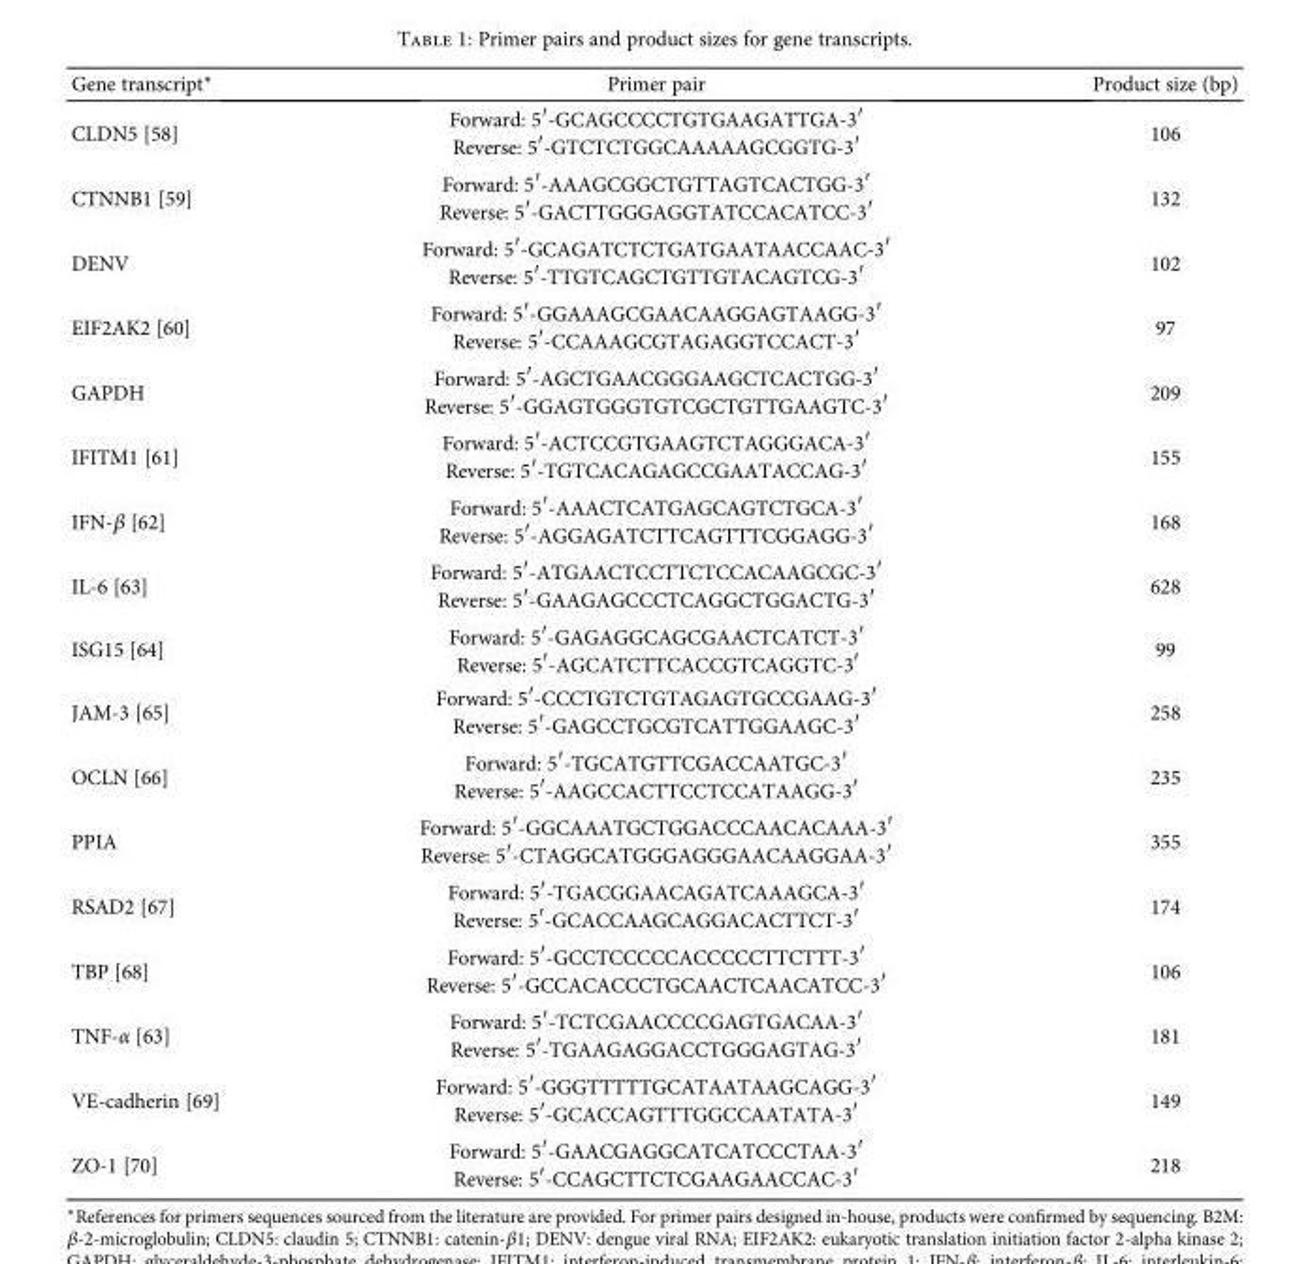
<table><thead><tr><td>Gene transcript∗</td><td>Primer pair</td><td>Product size (bp)</td></tr></thead><tbody><tr><td>CLDN5 [58]</td><td>Forward: 5′-GCAGCCCCTGTGAAGATTGA-3′ Reverse: 5′-GTCTCTGGCAAAAAGCGGTG-3′</td><td>106</td></tr><tr><td>CTNNB1 [59]</td><td>Forward: 5′-AAAGCGGCTGTTAGTCACTGG-3′ Reverse: 5′-GACTTGGGAGGTATCCACATCC-3′</td><td>132</td></tr><tr><td>DENV</td><td>Forward: 5′-GCAGATCTCTGATGAATAACCAAC-3′ Reverse: 5′-TTGTCAGCTGTTGTACAGTCG-3′</td><td>102</td></tr><tr><td>EIF2AK2 [60]</td><td>Forward: 5′-GGAAAGCGAACAAGGAGTAAGG-3′ Reverse: 5′-CCAAAGCGTAGAGGTCCACT-3′</td><td>97</td></tr><tr><td>GAPDH</td><td>Forward: 5′-AGCTGAACGGGAAGCTCACTGG-3′ Reverse: 5′-GGAGTGGGTGTCGCTGTTGAAGTC-3′</td><td>209</td></tr><tr><td>IFITM1 [61]</td><td>Forward: 5′-ACTCCGTGAAGTCTAGGGACA-3′ Reverse: 5′-TGTCACAGAGCCGAATACCAG-3′</td><td>155</td></tr><tr><td>IFN-β [62]</td><td>Forward: 5′-AAACTCATGAGCAGTCTGCA-3′ Reverse: 5′-AGGAGATCTTCAGTTTCGGAGG-3′</td><td>168</td></tr><tr><td>IL-6 [63]</td><td>Forward: 5′-ATGAACTCCTTCTCCACAAGCGC-3′ Reverse: 5′-GAAGAGCCCTCAGGCTGGACTG-3′</td><td>628</td></tr><tr><td>ISG15 [64]</td><td>Forward: 5′-GAGAGGCAGCGAACTCATCT-3′ Reverse: 5′-AGCATCTTCACCGTCAGGTC-3′</td><td>99</td></tr><tr><td>JAM-3 [65]</td><td>Forward: 5′-CCCTGTCTGTAGAGTGCCGAAG-3′ Reverse: 5′-GAGCCTGCGTCATTGGAAGC-3′</td><td>258</td></tr><tr><td>OCLN [66]</td><td>Forward: 5′-TGCATGTTCGACCAATGC-3′ Reverse: 5′-AAGCCACTTCCTCCATAAGG-3′</td><td>235</td></tr><tr><td>PPIA</td><td>Forward: 5′-GGCAAATGCTGGACCCAACACAAA-3′ Reverse: 5′-CTAGGCATGGGAGGGAACAAGGAA-3′</td><td>355</td></tr><tr><td>RSAD2 [67]</td><td>Forward: 5′-TGACGGAACAGATCAAAGCA-3′ Reverse: 5′-GCACCAAGCAGGACACTTCT-3′</td><td>174</td></tr><tr><td>TBP [68]</td><td>Forward: 5′-GCCTCCCCCACCCCCTTCTTT-3′ Reverse: 5′-GCCACACCCTGCAACTCAACATCC-3′</td><td>106</td></tr><tr><td>TNF-α [63]</td><td>Forward: 5′-TCTCGAACCCCGAGTGACAA-3′ Reverse: 5′-TGAAGAGGACCTGGGAGTAG-3′</td><td>181</td></tr><tr><td>VE-cadherin [69]</td><td>Forward: 5′-GGGTTTTTGCATAATAAGCAGG-3′ Reverse: 5′-GCACCAGTTTGGCCAATATA-3′</td><td>149</td></tr><tr><td>ZO-1 [70]</td><td>Forward: 5′-GAACGAGGCATCATCCCTAA-3′ Reverse: 5′-CCAGCTTCTCGAAGAACCAC-3′</td><td>218</td></tr></tbody></table>